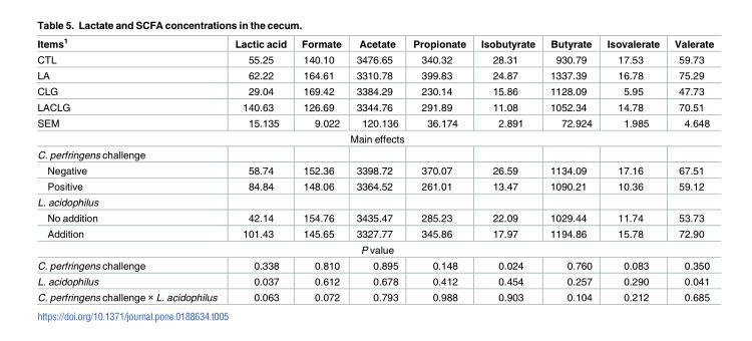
<table><thead><tr><td>Items<sup>1</sup></td><td>Lactic acid</td><td>Formate</td><td>Acetate</td><td>Propionate</td><td>Isobutyrate</td><td>Butyrate</td><td>Isovalerate</td><td>Valerate</td></tr></thead><tbody><tr><td>CTL</td><td>55.25</td><td>140.10</td><td>3476.65</td><td>340.32</td><td>28.31</td><td>930.79</td><td>17.53</td><td>59.73</td></tr><tr><td>LA</td><td>62.22</td><td>164.61</td><td>3310.78</td><td>399.83</td><td>24.87</td><td>1337.39</td><td>16.78</td><td>75.29</td></tr><tr><td>CLG</td><td>29.04</td><td>169.42</td><td>3384.29</td><td>230.14</td><td>15.86</td><td>1128.09</td><td>5.95</td><td>47.73</td></tr><tr><td>LACLG</td><td>140.63</td><td>126.69</td><td>3344.76</td><td>291.89</td><td>11.08</td><td>1052.34</td><td>14.78</td><td>70.51</td></tr><tr><td>SEM</td><td>15.135</td><td>9.022</td><td>120.136</td><td>36.174</td><td>2.891</td><td>72.924</td><td>1.985</td><td>4.648</td></tr><tr><td colspan="9">Main effects</td></tr><tr><td colspan="9">C. perfringens challenge</td></tr><tr><td>Negative</td><td>58.74</td><td>152.36</td><td>3398.72</td><td>370.07</td><td>26.59</td><td>1134.09</td><td>17.16</td><td>67.51</td></tr><tr><td>Positive</td><td>84.84</td><td>148.06</td><td>3364.52</td><td>261.01</td><td>13.47</td><td>1090.21</td><td>10.36</td><td>59.12</td></tr><tr><td colspan="9">L. acidophilus</td></tr><tr><td>No addition</td><td>42.14</td><td>154.76</td><td>3435.47</td><td>285.23</td><td>22.09</td><td>1029.44</td><td>11.74</td><td>53.73</td></tr><tr><td>Addition</td><td>101.43</td><td>145.65</td><td>3327.77</td><td>345.86</td><td>17.97</td><td>1194.86</td><td>15.78</td><td>72.90</td></tr><tr><td colspan="9">P value</td></tr><tr><td>C. perfringens challenge</td><td>0.338</td><td>0.810</td><td>0.895</td><td>0.148</td><td>0.024</td><td>0.760</td><td>0.083</td><td>0.350</td></tr><tr><td>L. acidophilus</td><td>0.037</td><td>0.612</td><td>0.678</td><td>0.412</td><td>0.454</td><td>0.257</td><td>0.290</td><td>0.041</td></tr><tr><td>C. perfringens challenge × L. acidophilus</td><td>0.063</td><td>0.072</td><td>0.793</td><td>0.988</td><td>0.903</td><td>0.104</td><td>0.212</td><td>0.685</td></tr></tbody></table>